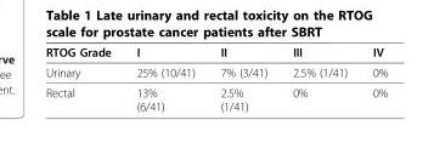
<table><thead><tr><td>RTOG Grade</td><td>I</td><td>II</td><td>III</td><td>IV</td></tr></thead><tbody><tr><td>Urinary</td><td>25% (10/41)</td><td>7% (3/41)</td><td>2.5% (1/41)</td><td>0%</td></tr><tr><td>Rectal</td><td>13% (6/41)</td><td>2.5% (1/41)</td><td>0%</td><td>0%</td></tr></tbody></table>